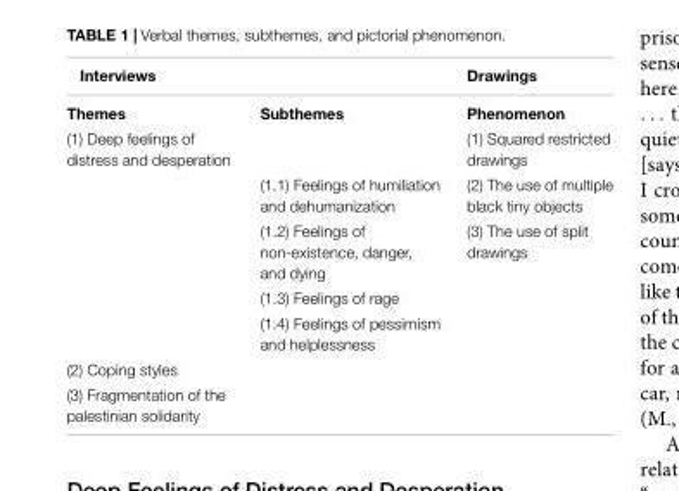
<table><thead><tr><td colspan="2">Interviews</td><td rowspan="2">Drawings Phenomenon</td></tr><tr><td>Themes</td><td>Subthemes</td></tr></thead><tbody><tr><td rowspan="5">(1) Deep feelings of distress and desperation</td><td></td><td>(1) Squared restricted drawings</td></tr><tr><td>(1.1) Feelings of humiliation and dehumanization</td><td>(2) The use of multiple black tiny objects</td></tr><tr><td>(1.2) Feelings of non-existence, danger, and dying</td><td>(3) The use of split drawings</td></tr><tr><td>(1.3) Feelings of rage</td><td></td></tr><tr><td>(1.4) Feelings of pessimism and helplessness</td><td></td></tr><tr><td colspan="3">(2) Coping styles</td></tr><tr><td>(3) Fragmentation of the palestinian solidarity</td><td></td><td></td></tr></tbody></table>